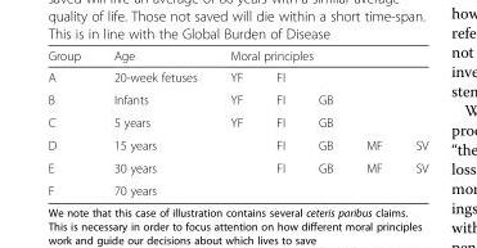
<table><thead><tr><td rowspan="2">Group A</td><td rowspan="2">Age 20-week fetuses</td><td colspan="5">Moral principles</td></tr><tr><td>YF</td><td>FI</td><td></td><td></td><td></td></tr></thead><tbody><tr><td>B</td><td>Infants</td><td>YF</td><td>FI</td><td>GB</td><td></td><td></td></tr><tr><td>C</td><td>5 years</td><td>YF</td><td>FI</td><td>GB</td><td></td><td></td></tr><tr><td>D</td><td>15 years</td><td></td><td>FI</td><td>GB</td><td>MF</td><td>SV</td></tr><tr><td>E</td><td>30 years</td><td></td><td>FI</td><td>GB</td><td>MF</td><td>SV</td></tr><tr><td>F</td><td>70 years</td><td></td><td></td><td></td><td></td><td></td></tr></tbody></table>